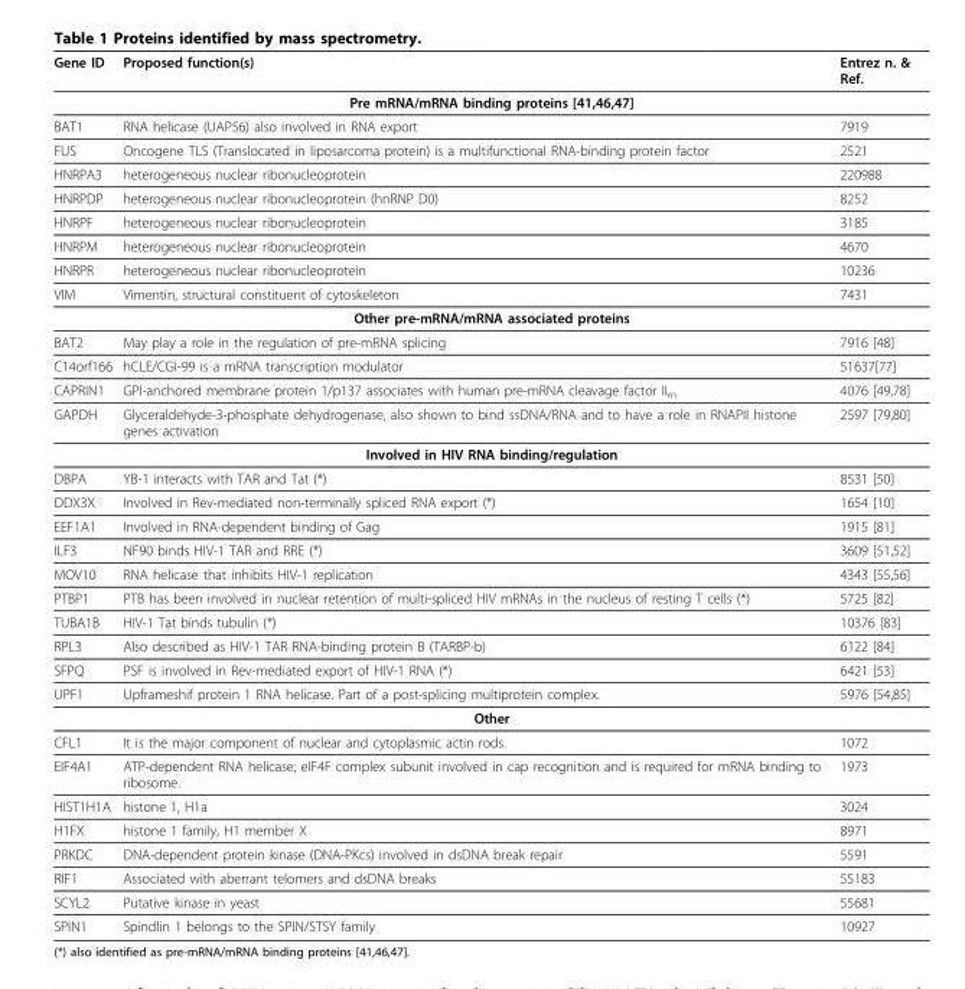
<table><thead><tr><td>Gene ID</td><td>Proposed function(s)</td><td>Entrez n. &amp; Ref.</td></tr></thead><tbody><tr><td colspan="3">Pre mRNA/mRNA binding proteins [41,46,47]</td></tr><tr><td>BAT1</td><td>RNA helicase (UAP56) also involved in RNA export</td><td>7919</td></tr><tr><td>FUS</td><td>Oncogene TLS (Translocated in liposarcoma protein) is a multifunctional RNA-binding protein factor</td><td>2521</td></tr><tr><td>HNRPA3</td><td>heterogeneous nuclear ribonucleoprotein</td><td>220988</td></tr><tr><td>HNRPDP</td><td>heterogeneous nuclear ribonucleoprotein (hnRNP D0)</td><td>8252</td></tr><tr><td>HNRPF</td><td>heterogeneous nuclear ribonucleoprotein</td><td>3185</td></tr><tr><td>HNRPM</td><td>heterogeneous nuclear ribonucleoprotein</td><td>4670</td></tr><tr><td>HNRPR</td><td>heterogeneous nuclear ribonucleoprotein</td><td>10236</td></tr><tr><td>VIM</td><td>Vimentin, structural constituent of cytoskeleton</td><td>7431</td></tr><tr><td colspan="3">Other pre-mRNA/mRNA associated proteins</td></tr><tr><td>BAT2</td><td>May play a role in the regulation of pre-mRNA splicing</td><td>7916 [48]</td></tr><tr><td>C14orf166</td><td>hCLE/CGI-99 is a mRNA transcription modulator</td><td>51637[77]</td></tr><tr><td>CAPRIN1</td><td>GPI-anchored membrane protein 1/p137 associates with human pre-mRNA cleavage factor II<sub>m</sub></td><td>4076 [49,78]</td></tr><tr><td>GAPDH</td><td>Glyceraldehyde-3-phosphate dehydrogenase, also shown to bind ssDNA/RNA and to have a role in RNAPII histone genes activation</td><td>2597 [79,80]</td></tr><tr><td colspan="3">Involved in HIV RNA binding/regulation</td></tr><tr><td>DBPA</td><td>YB-1 interacts with TAR and Tat (*)</td><td>8531 [50]</td></tr><tr><td>DDX3X</td><td>Involved in Rev-mediated non-terminally spliced RNA export (*)</td><td>1654 [10]</td></tr><tr><td>EEF1A1</td><td>Involved in RNA-dependent binding of Gag</td><td>1915 [81]</td></tr><tr><td>ILF3</td><td>NF90 binds HIV-1 TAR and RRE (*)</td><td>3609 [51,52]</td></tr><tr><td>MOV10</td><td>RNA helicase that inhibits HIV-1 replication</td><td>4343 [55,56]</td></tr><tr><td>PTBP1</td><td>PTB has been involved in nuclear retention of multi-spliced HIV mRNAs in the nucleus of resting T cells (*)</td><td>5725 [82]</td></tr><tr><td>TUBA1B</td><td>HIV-1 Tat binds tubulin (*)</td><td>10376 [83]</td></tr><tr><td>RPL3</td><td>Also described as HIV-1 TAR RNA-binding protein B (TARBP-b)</td><td>6122 [84]</td></tr><tr><td>SFPQ</td><td>PSF is involved in Rev-mediated export of HIV-1 RNA (*)</td><td>6421 [53]</td></tr><tr><td>UPF1</td><td>Upframeshif protein 1 RNA helicase. Part of a post-splicing multiprotein complex.</td><td>5976 [54,85]</td></tr><tr><td colspan="3">Other</td></tr><tr><td>CFL1</td><td>It is the major component of nuclear and cytoplasmic actin rods.</td><td>1072</td></tr><tr><td>EIF4A1</td><td>ATP-dependent RNA helicase; eIF4F complex subunit involved in cap recognition and is required for mRNA binding to ribosome.</td><td>1973</td></tr><tr><td>HIST1H1A</td><td>histone 1, H1a</td><td>3024</td></tr><tr><td>H1FX</td><td>histone 1 family, H1 member X</td><td>8971</td></tr><tr><td>PRKDC</td><td>DNA-dependent protein kinase (DNA-PKcs) involved in dsDNA break repair</td><td>5591</td></tr><tr><td>RIF1</td><td>Associated with aberrant telomers and dsDNA breaks</td><td>55183</td></tr><tr><td>SCYL2</td><td>Putative kinase in yeast</td><td>55681</td></tr><tr><td>SPIN1</td><td>Spindlin 1 belongs to the SPIN/STSY family</td><td>10927</td></tr></tbody></table>